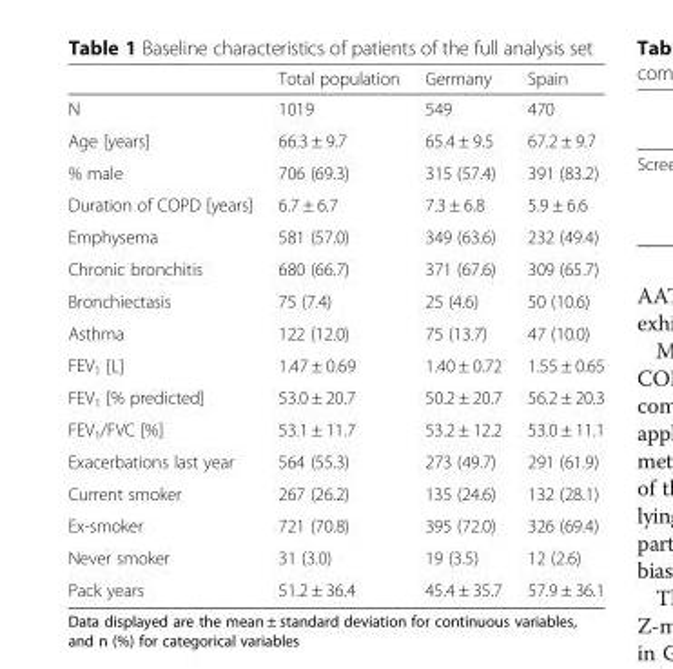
<table><thead><tr><td></td><td>Total population</td><td>Germany</td><td>Spain</td></tr></thead><tbody><tr><td>N</td><td>1019</td><td>549</td><td>470</td></tr><tr><td>Age [years]</td><td>66.3 ± 9.7</td><td>65.4 ± 9.5</td><td>67.2 ± 9.7</td></tr><tr><td>% male</td><td>706 (69.3)</td><td>315 (57.4)</td><td>391 (83.2)</td></tr><tr><td>Duration of COPD [years]</td><td>6.7 ± 6.7</td><td>7.3 ± 6.8</td><td>5.9 ± 6.6</td></tr><tr><td>Emphysema</td><td>581 (57.0)</td><td>349 (63.6)</td><td>232 (49.4)</td></tr><tr><td>Chronic bronchitis</td><td>680 (66.7)</td><td>371 (67.6)</td><td>309 (65.7)</td></tr><tr><td>Bronchiectasis</td><td>75 (7.4)</td><td>25 (4.6)</td><td>50 (10.6)</td></tr><tr><td>Asthma</td><td>122 (12.0)</td><td>75 (13.7)</td><td>47 (10.0)</td></tr><tr><td>FEV<sub>1</sub> [L]</td><td>1.47 ± 0.69</td><td>1.40 ± 0.72</td><td>1.55 ± 0.65</td></tr><tr><td>FEV<sub>1</sub> [% predicted]</td><td>53.0 ± 20.7</td><td>50.2 ± 20.7</td><td>56.2 ± 20.3</td></tr><tr><td>FEV<sub>1</sub>/FVC [%]</td><td>53.1 ± 11.7</td><td>53.2 ± 12.2</td><td>53.0 ± 11.1</td></tr><tr><td>Exacerbations last year</td><td>564 (55.3)</td><td>273 (49.7)</td><td>291 (61.9)</td></tr><tr><td>Current smoker</td><td>267 (26.2)</td><td>135 (24.6)</td><td>132 (28.1)</td></tr><tr><td>Ex-smoker</td><td>721 (70.8)</td><td>395 (72.0)</td><td>326 (69.4)</td></tr><tr><td>Never smoker</td><td>31 (3.0)</td><td>19 (3.5)</td><td>12 (2.6)</td></tr><tr><td>Pack years</td><td>51.2 ± 36.4</td><td>45.4 ± 35.7</td><td>57.9 ± 36.1</td></tr></tbody></table>